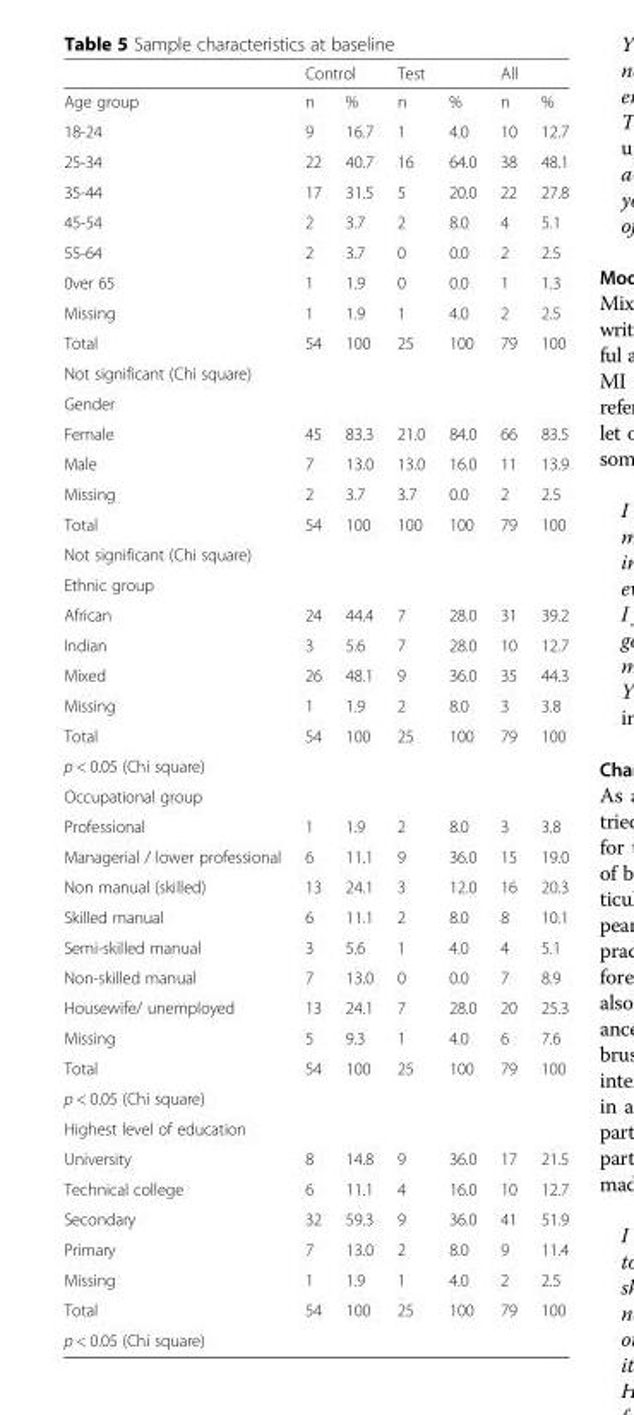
<table><thead><tr><td rowspan="2">Age group</td><td colspan="2">Control</td><td colspan="2">Test</td><td colspan="2">All</td></tr><tr><td>n</td><td>%</td><td>n</td><td>%</td><td>n</td><td>%</td></tr></thead><tbody><tr><td>18-24</td><td>9</td><td>16.7</td><td>1</td><td>4.0</td><td>10</td><td>12.7</td></tr><tr><td>25-34</td><td>22</td><td>40.7</td><td>16</td><td>64.0</td><td>38</td><td>48.1</td></tr><tr><td>35-44</td><td>17</td><td>31.5</td><td>5</td><td>20.0</td><td>22</td><td>27.8</td></tr><tr><td>45-54</td><td>2</td><td>3.7</td><td>2</td><td>8.0</td><td>4</td><td>5.1</td></tr><tr><td>55-64</td><td>2</td><td>3.7</td><td>0</td><td>0.0</td><td>2</td><td>2.5</td></tr><tr><td>0ver 65</td><td>1</td><td>1.9</td><td>0</td><td>0.0</td><td>1</td><td>1.3</td></tr><tr><td>Missing</td><td>1</td><td>1.9</td><td>1</td><td>4.0</td><td>2</td><td>2.5</td></tr><tr><td>Total</td><td>54</td><td>100</td><td>25</td><td>100</td><td>79</td><td>100</td></tr><tr><td colspan="7">Not significant (Chi square)</td></tr><tr><td colspan="7">Gender</td></tr><tr><td>Female</td><td>45</td><td>83.3</td><td>21.0</td><td>84.0</td><td>66</td><td>83.5</td></tr><tr><td>Male</td><td>7</td><td>13.0</td><td>13.0</td><td>16.0</td><td>11</td><td>13.9</td></tr><tr><td>Missing</td><td>2</td><td>3.7</td><td>3.7</td><td>0.0</td><td>2</td><td>2.5</td></tr><tr><td>Total</td><td>54</td><td>100</td><td>100</td><td>100</td><td>79</td><td>100</td></tr><tr><td colspan="7">Not significant (Chi square)</td></tr><tr><td colspan="7">Ethnic group</td></tr><tr><td>African</td><td>24</td><td>44.4</td><td>7</td><td>28.0</td><td>31</td><td>39.2</td></tr><tr><td>Indian</td><td>3</td><td>5.6</td><td>7</td><td>28.0</td><td>10</td><td>12.7</td></tr><tr><td>Mixed</td><td>26</td><td>48.1</td><td>9</td><td>36.0</td><td>35</td><td>44.3</td></tr><tr><td>Missing</td><td>1</td><td>1.9</td><td>2</td><td>8.0</td><td>3</td><td>3.8</td></tr><tr><td>Total</td><td>54</td><td>100</td><td>25</td><td>100</td><td>79</td><td>100</td></tr><tr><td colspan="7">p &lt; 0.05 (Chi square)</td></tr><tr><td colspan="7">Occupational group</td></tr><tr><td>Professional</td><td>1</td><td>1.9</td><td>2</td><td>8.0</td><td>3</td><td>3.8</td></tr><tr><td>Managerial / lower professional</td><td>6</td><td>11.1</td><td>9</td><td>36.0</td><td>15</td><td>19.0</td></tr><tr><td>Non manual (skilled)</td><td>13</td><td>24.1</td><td>3</td><td>12.0</td><td>16</td><td>20.3</td></tr><tr><td>Skilled manual</td><td>6</td><td>11.1</td><td>2</td><td>8.0</td><td>8</td><td>10.1</td></tr><tr><td>Semi-skilled manual</td><td>3</td><td>5.6</td><td>1</td><td>4.0</td><td>4</td><td>5.1</td></tr><tr><td>Non-skilled manual</td><td>7</td><td>13.0</td><td>0</td><td>0.0</td><td>7</td><td>8.9</td></tr><tr><td>Housewife/ unemployed</td><td>13</td><td>24.1</td><td>7</td><td>28.0</td><td>20</td><td>25.3</td></tr><tr><td>Missing</td><td>5</td><td>9.3</td><td>1</td><td>4.0</td><td>6</td><td>7.6</td></tr><tr><td>Total</td><td>54</td><td>100</td><td>25</td><td>100</td><td>79</td><td>100</td></tr><tr><td colspan="7">p &lt; 0.05 (Chi square)</td></tr><tr><td colspan="7">Highest level of education</td></tr><tr><td>University</td><td>8</td><td>14.8</td><td>9</td><td>36.0</td><td>17</td><td>21.5</td></tr><tr><td>Technical college</td><td>6</td><td>11.1</td><td>4</td><td>16.0</td><td>10</td><td>12.7</td></tr><tr><td>Secondary</td><td>32</td><td>59.3</td><td>9</td><td>36.0</td><td>41</td><td>51.9</td></tr><tr><td>Primary</td><td>7</td><td>13.0</td><td>2</td><td>8.0</td><td>9</td><td>11.4</td></tr><tr><td>Missing</td><td>1</td><td>1.9</td><td>1</td><td>4.0</td><td>2</td><td>2.5</td></tr><tr><td>Total</td><td>54</td><td>100</td><td>25</td><td>100</td><td>79</td><td>100</td></tr><tr><td colspan="7">p &lt; 0.05 (Chi square)</td></tr></tbody></table>